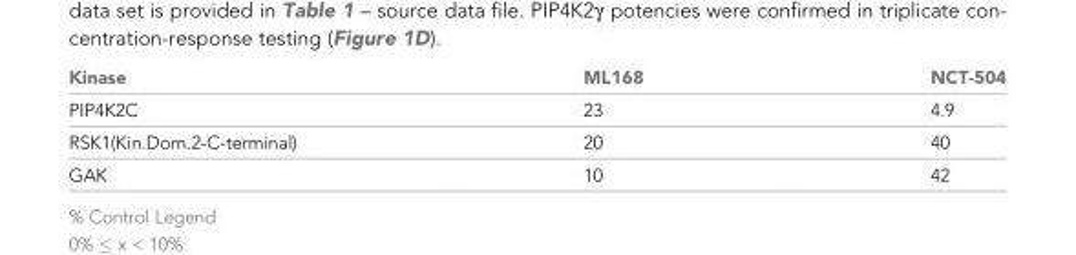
<table><thead><tr><td>Kinase</td><td>ML168</td><td>NCT-504</td></tr></thead><tbody><tr><td>PIP4K2C</td><td>23</td><td>4.9</td></tr><tr><td>RSK1(Kin.Dom.2-C-terminal)</td><td>20</td><td>40</td></tr><tr><td>GAK</td><td>10</td><td>42</td></tr></tbody></table>